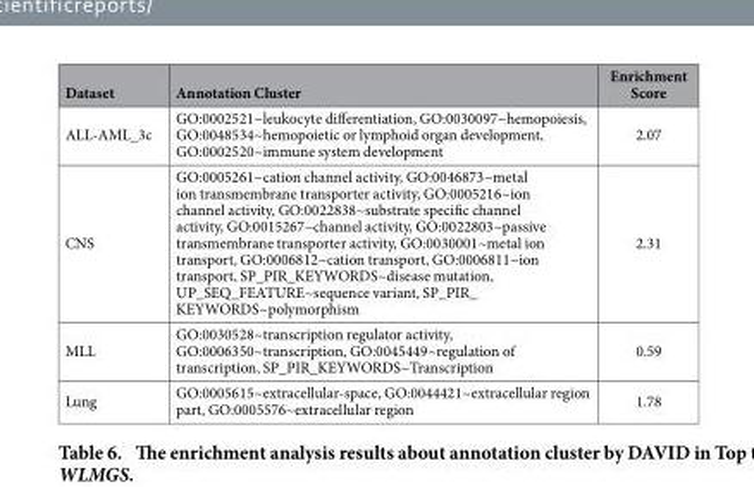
<table><thead><tr><td>Dataset</td><td>Annotation Cluster</td><td>Enrichment Score</td></tr></thead><tbody><tr><td>ALL-AML_3c</td><td>GO:0002521~leukocyte differentiation, GO:0030097~hemopoiesis, GO:0048534~hemopoietic or lymphoid organ development, GO:0002520~immune system development</td><td>2.07</td></tr><tr><td>CNS</td><td>GO:0005261~cation channel activity, GO:0046873~metal ion transmembrane transporter activity, GO:0005216~ion channel activity, GO:0022838~substrate specific channel activity, GO:0015267~channel activity, GO:0022803~passive transmembrane transporter activity, GO:0030001~metal ion transport, GO:0006812~cation transport, GO:0006811~ion transport, SP_PIR_KEYWORDS~disease mutation, UP_SEQ_FEATURE~sequence variant, SP_PIR_ KEYWORDS~polymorphism</td><td>2.31</td></tr><tr><td>MLL</td><td>GO:0030528~transcription regulator activity, GO:0006350~transcription, GO:0045449~regulation of transcription, SP_PIR_KEYWORDS~Transcription</td><td>0.59</td></tr><tr><td>Lung</td><td>GO:0005615~extracellular-space, GO:0044421~extracellular region part, GO:0005576~extracellular region</td><td>1.78</td></tr></tbody></table>